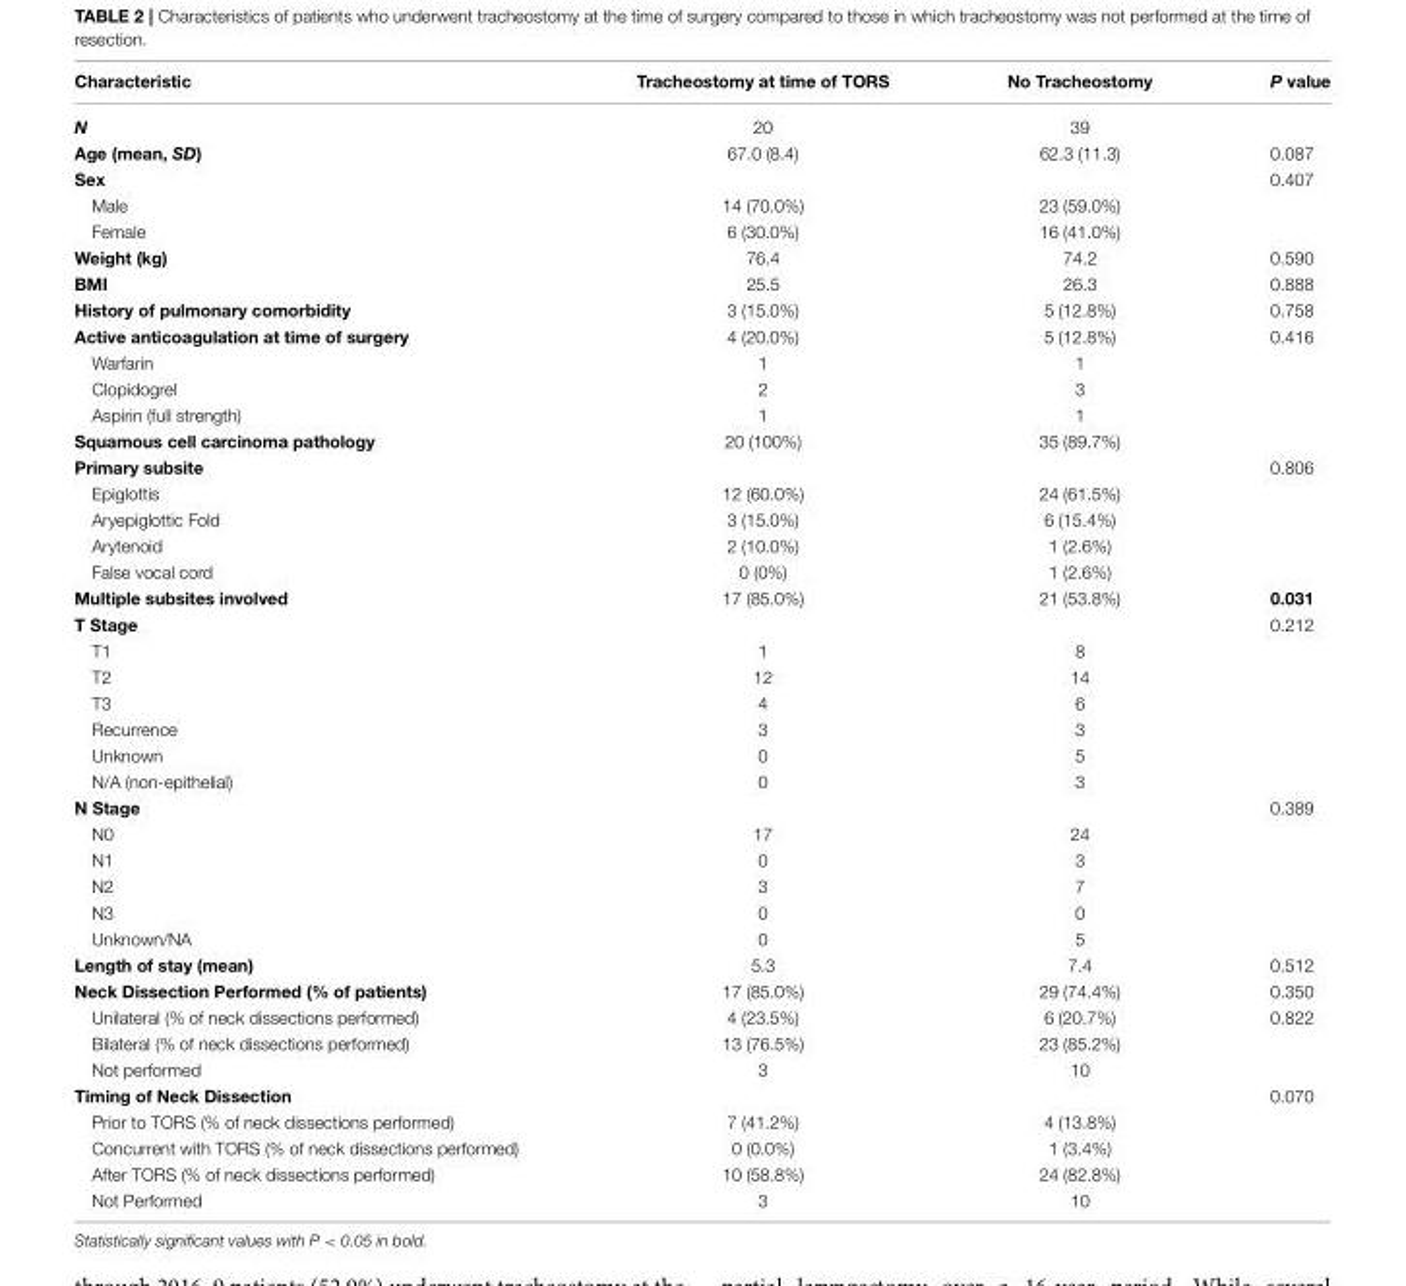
<table><thead><tr><td>Characteristic</td><td>Tracheostomy at time of TORS</td><td>No Tracheostomy</td><td>P value</td></tr></thead><tbody><tr><td>N</td><td>20</td><td>39</td><td></td></tr><tr><td>Age (mean, SD)</td><td>67.0 (8.4)</td><td>62.3 (11.3)</td><td>0.087</td></tr><tr><td>Sex</td><td></td><td></td><td>0.407</td></tr><tr><td>Male</td><td>14 (70.0%)</td><td>23 (59.0%)</td><td></td></tr><tr><td>Female</td><td>6 (30.0%)</td><td>16 (41.0%)</td><td></td></tr><tr><td>Weight (kg)</td><td>76.4</td><td>74.2</td><td>0.590</td></tr><tr><td>BMI</td><td>25.5</td><td>26.3</td><td>0.888</td></tr><tr><td>History of pulmonary comorbidity</td><td>3 (15.0%)</td><td>5 (12.8%)</td><td>0.758</td></tr><tr><td>Active anticoagulation at time of surgery</td><td>4 (20.0%)</td><td>5 (12.8%)</td><td>0.416</td></tr><tr><td>Warfarin</td><td>1</td><td>1</td><td></td></tr><tr><td>Clopidogrel</td><td>2</td><td>3</td><td></td></tr><tr><td>Aspirin (full strength)</td><td>1</td><td>1</td><td></td></tr><tr><td>Squamous cell carcinoma pathology</td><td>20 (100%)</td><td>35 (89.7%)</td><td></td></tr><tr><td>Primary subsite</td><td></td><td></td><td>0.806</td></tr><tr><td>Epiglottis</td><td>12 (60.0%)</td><td>24 (61.5%)</td><td></td></tr><tr><td>Aryepiglottic Fold</td><td>3 (15.0%)</td><td>6 (15.4%)</td><td></td></tr><tr><td>Arytenoid</td><td>2 (10.0%)</td><td>1 (2.6%)</td><td></td></tr><tr><td>False vocal cord</td><td>0 (0%)</td><td>1 (2.6%)</td><td></td></tr><tr><td>Multiple subsites involved</td><td>17 (85.0%)</td><td>21 (53.8%)</td><td>0.031</td></tr><tr><td>T Stage</td><td></td><td></td><td>0.212</td></tr><tr><td>T1</td><td>1</td><td>8</td><td></td></tr><tr><td>T2</td><td>12</td><td>14</td><td></td></tr><tr><td>T3</td><td>4</td><td>6</td><td></td></tr><tr><td>Recurrence</td><td>3</td><td>3</td><td></td></tr><tr><td>Unknown</td><td>0</td><td>5</td><td></td></tr><tr><td>N/A (non-epithelial)</td><td>0</td><td>3</td><td></td></tr><tr><td>N Stage</td><td></td><td></td><td>0.389</td></tr><tr><td>N0</td><td>17</td><td>24</td><td></td></tr><tr><td>N1</td><td>0</td><td>3</td><td></td></tr><tr><td>N2</td><td>3</td><td>7</td><td></td></tr><tr><td>N3</td><td>0</td><td>0</td><td></td></tr><tr><td>Unknown/NA</td><td>0</td><td>5</td><td></td></tr><tr><td>Length of stay (mean)</td><td>5.3</td><td>7.4</td><td>0.512</td></tr><tr><td>Neck Dissection Performed (% of patients)</td><td>17 (85.0%)</td><td>29 (74.4%)</td><td>0.350</td></tr><tr><td>Unilateral (% of neck dissections performed)</td><td>4 (23.5%)</td><td>6 (20.7%)</td><td>0.822</td></tr><tr><td>Bilateral (% of neck dissections performed)</td><td>13 (76.5%)</td><td>23 (85.2%)</td><td></td></tr><tr><td>Not performed</td><td>3</td><td>10</td><td></td></tr><tr><td>Timing of Neck Dissection</td><td></td><td></td><td>0.070</td></tr><tr><td>Prior to TORS (% of neck dissections performed)</td><td>7 (41.2%)</td><td>4 (13.8%)</td><td></td></tr><tr><td>Concurrent with TORS (% of neck dissections performed)</td><td>0 (0.0%)</td><td>1 (3.4%)</td><td></td></tr><tr><td>After TORS (% of neck dissections performed)</td><td>10 (58.8%)</td><td>24 (82.8%)</td><td></td></tr><tr><td>Not Performed</td><td>3</td><td>10</td><td></td></tr></tbody></table>